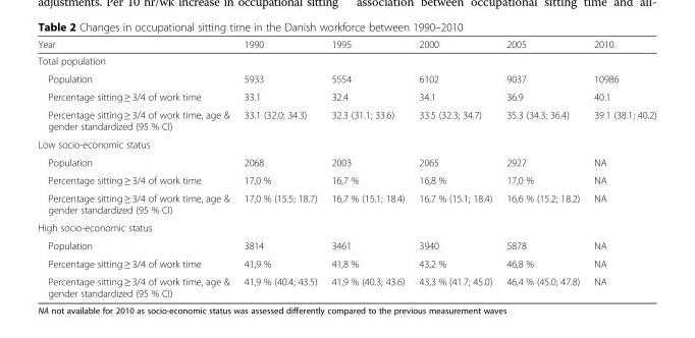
<table><thead><tr><td>Year</td><td>1990</td><td>1995</td><td>2000</td><td>2005</td><td>2010</td></tr></thead><tbody><tr><td colspan="6">Total population</td></tr><tr><td>Population</td><td>5933</td><td>5554</td><td>6102</td><td>9037</td><td>10986</td></tr><tr><td>Percentage sitting ≥ 3/4 of work time</td><td>33.1</td><td>32.4</td><td>34.1</td><td>36.9</td><td>40.1</td></tr><tr><td>Percentage sitting ≥ 3/4 of work time, age &amp; gender standardized (95 % CI)</td><td>33.1 (32.0; 34.3)</td><td>32.3 (31.1; 33.6)</td><td>33.5 (32.3; 34.7)</td><td>35.3 (34.3; 36.4)</td><td>39.1 (38.1; 40.2)</td></tr><tr><td colspan="6">Low socio-economic status</td></tr><tr><td>Population</td><td>2068</td><td>2003</td><td>2065</td><td>2927</td><td>NA</td></tr><tr><td>Percentage sitting ≥ 3/4 of work time</td><td>17,0 %</td><td>16,7 %</td><td>16,8 %</td><td>17,0 %</td><td>NA</td></tr><tr><td>Percentage sitting ≥ 3/4 of work time, age &amp; gender standardized (95 % CI)</td><td>17,0 % (15.5; 18.7)</td><td>16,7 % (15.1; 18.4)</td><td>16,7 % (15.1; 18.4)</td><td>16,6 % (15.2; 18.2)</td><td>NA</td></tr><tr><td colspan="6">High socio-economic status</td></tr><tr><td>Population</td><td>3814</td><td>3461</td><td>3940</td><td>5878</td><td>NA</td></tr><tr><td>Percentage sitting ≥ 3/4 of work time</td><td>41,9 %</td><td>41,8 %</td><td>43,2 %</td><td>46,8 %</td><td>NA</td></tr><tr><td>Percentage sitting ≥ 3/4 of work time, age &amp; gender standardized (95 % CI)</td><td>41,9 % (40.4; 43.5)</td><td>41,9 % (40.3; 43.6)</td><td>43,3 % (41.7; 45.0)</td><td>46,4 % (45.0; 47.8)</td><td>NA</td></tr></tbody></table>